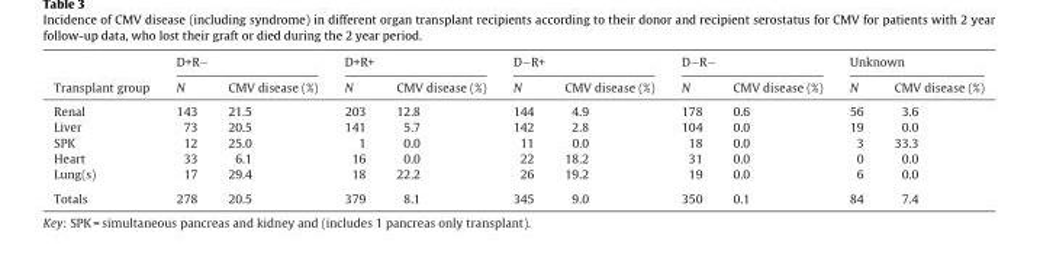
<table><thead><tr><td rowspan="2">Transplant group</td><td colspan="2">D+R−</td><td colspan="2">D+R+</td><td colspan="2">D−R+</td><td colspan="2">D−R−</td><td colspan="2">Unknown</td></tr><tr><td>N</td><td>CMV disease (%)</td><td>N</td><td>CMV disease (%)</td><td>N</td><td>CMV disease (%)</td><td>N</td><td>CMV disease (%)</td><td>N</td><td>CMV disease (%)</td></tr></thead><tbody><tr><td>Renal</td><td>143</td><td>21.5</td><td>203</td><td>12.8</td><td>144</td><td>4.9</td><td>178</td><td>0.6</td><td>56</td><td>3.6</td></tr><tr><td>Liver</td><td>73</td><td>20.5</td><td>141</td><td>5.7</td><td>142</td><td>2.8</td><td>104</td><td>0.0</td><td>19</td><td>0.0</td></tr><tr><td>SPK</td><td>12</td><td>25.0</td><td>1</td><td>0.0</td><td>11</td><td>0.0</td><td>18</td><td>0.0</td><td>3</td><td>33.3</td></tr><tr><td>Heart</td><td>33</td><td>6.1</td><td>16</td><td>0.0</td><td>22</td><td>18.2</td><td>31</td><td>0.0</td><td>0</td><td>0.0</td></tr><tr><td>Lung(s)</td><td>17</td><td>29.4</td><td>18</td><td>22.2</td><td>26</td><td>19.2</td><td>19</td><td>0.0</td><td>6</td><td>0.0</td></tr><tr><td>Totals</td><td>278</td><td>20.5</td><td>379</td><td>8.1</td><td>345</td><td>9.0</td><td>350</td><td>0.1</td><td>84</td><td>7.4</td></tr></tbody></table>